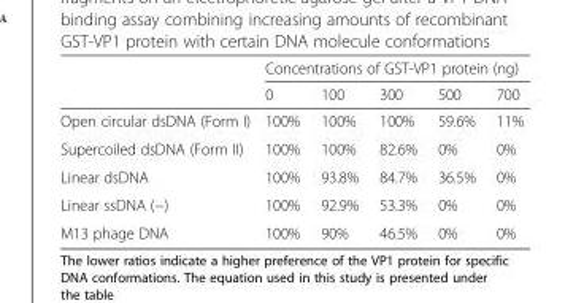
<table><thead><tr><td rowspan="2"></td><td colspan="5">Concentrations of GST-VP1 protein (ng)</td></tr><tr><td>0</td><td>100</td><td>300</td><td>500</td><td>700</td></tr></thead><tbody><tr><td>Open circular dsDNA (Form I)</td><td>100%</td><td>100%</td><td>100%</td><td>59.6%</td><td>11%</td></tr><tr><td>Supercoiled dsDNA (Form II)</td><td>100%</td><td>100%</td><td>82.6%</td><td>0%</td><td>0%</td></tr><tr><td>Linear dsDNA</td><td>100%</td><td>93.8%</td><td>84.7%</td><td>36.5%</td><td>0%</td></tr><tr><td>Linear ssDNA (−)</td><td>100%</td><td>92.9%</td><td>53.3%</td><td>0%</td><td>0%</td></tr><tr><td>M13 phage DNA</td><td>100%</td><td>90%</td><td>46.5%</td><td>0%</td><td>0%</td></tr></tbody></table>